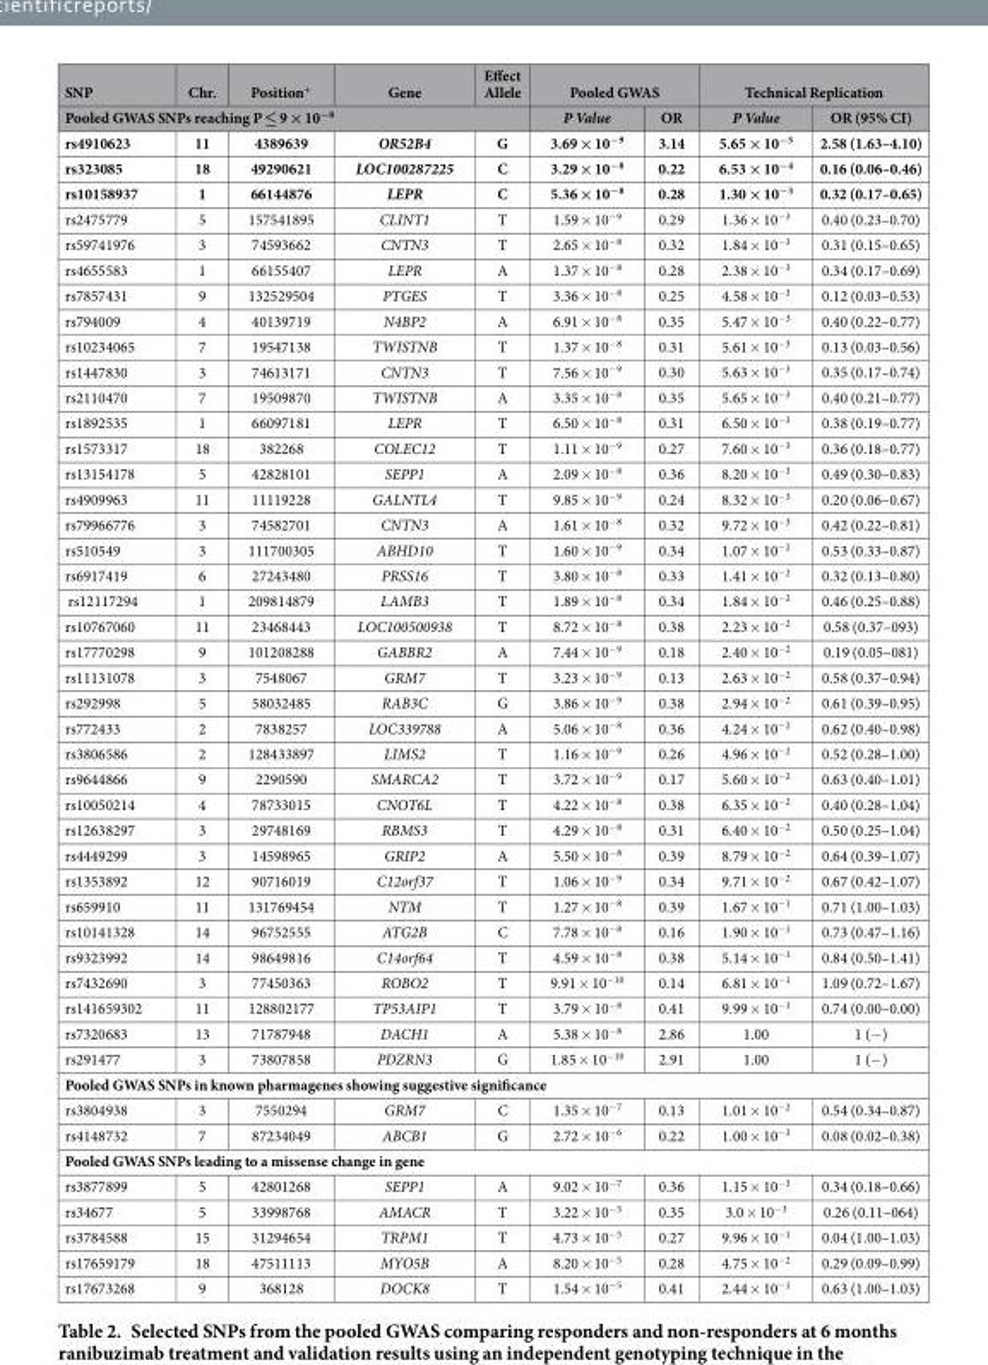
<table><thead><tr><td>SNP</td><td>Chr.</td><td>Position<sup>+</sup></td><td>Gene</td><td>Effect Allele</td><td colspan="2">Pooled GWAS</td><td colspan="2">Technical Replication</td></tr><tr><td colspan="5">Pooled GWAS SNPs reaching P ≤ 9 × 10<sup>−8</sup></td><td>P Value</td><td>OR</td><td>P Value</td><td>OR (95% CI)</td></tr></thead><tbody><tr><td>rs4910623</td><td>11</td><td>4389639</td><td>OR52B4</td><td>G</td><td>3.69 × 10<sup>−9</sup></td><td>3.14</td><td>5.65 × 10<sup>−5</sup></td><td>2.58 (1.63–4.10)</td></tr><tr><td>rs323085</td><td>18</td><td>49290621</td><td>LOC100287225</td><td>C</td><td>3.29 × 10<sup>−8</sup></td><td>0.22</td><td>6.53 × 10<sup>−4</sup></td><td>0.16 (0.06–0.46)</td></tr><tr><td>rs10158937</td><td>1</td><td>66144876</td><td>LEPR</td><td>C</td><td>5.36 × 10<sup>−8</sup></td><td>0.28</td><td>1.30 × 10<sup>−3</sup></td><td>0.32 (0.17–0.65)</td></tr><tr><td>rs2475779</td><td>5</td><td>157541895</td><td>CLINT1</td><td>T</td><td>1.59 × 10<sup>−9</sup></td><td>0.29</td><td>1.36 × 10<sup>−3</sup></td><td>0.40 (0.23–0.70)</td></tr><tr><td>rs59741976</td><td>3</td><td>74593662</td><td>CNTN3</td><td>T</td><td>2.65 × 10<sup>−8</sup></td><td>0.32</td><td>1.84 × 10<sup>−3</sup></td><td>0.31 (0.15–0.65)</td></tr><tr><td>rs4655583</td><td>1</td><td>66155407</td><td>LEPR</td><td>A</td><td>1.37 × 10<sup>−8</sup></td><td>0.28</td><td>2.38 × 10<sup>−3</sup></td><td>0.34 (0.17–0.69)</td></tr><tr><td>rs7857431</td><td>9</td><td>132529504</td><td>PTGES</td><td>T</td><td>3.36 × 10<sup>−8</sup></td><td>0.25</td><td>4.58 × 10<sup>−3</sup></td><td>0.12 (0.03–0.53)</td></tr><tr><td>rs794009</td><td>4</td><td>40139719</td><td>N4BP2</td><td>A</td><td>6.91 × 10<sup>−8</sup></td><td>0.35</td><td>5.47 × 10<sup>−3</sup></td><td>0.40 (0.22–0.77)</td></tr><tr><td>rs10234065</td><td>7</td><td>19547138</td><td>TWISTNB</td><td>T</td><td>1.37 × 10<sup>−8</sup></td><td>0.31</td><td>5.61 × 10<sup>−3</sup></td><td>0.13 (0.03–0.56)</td></tr><tr><td>rs1447830</td><td>3</td><td>74613171</td><td>CNTN3</td><td>T</td><td>7.56 × 10<sup>−9</sup></td><td>0.30</td><td>5.63 × 10<sup>−3</sup></td><td>0.35 (0.17–0.74)</td></tr><tr><td>rs2110470</td><td>7</td><td>19509870</td><td>TWISTNB</td><td>A</td><td>3.35 × 10<sup>−8</sup></td><td>0.35</td><td>5.65 × 10<sup>−3</sup></td><td>0.40 (0.21–0.77)</td></tr><tr><td>rs1892535</td><td>1</td><td>66097181</td><td>LEPR</td><td>T</td><td>6.50 × 10<sup>−8</sup></td><td>0.31</td><td>6.50 × 10<sup>−3</sup></td><td>0.38 (0.19–0.77)</td></tr><tr><td>rs1573317</td><td>18</td><td>382268</td><td>COLEC12</td><td>T</td><td>1.11 × 10<sup>−9</sup></td><td>0.27</td><td>7.60 × 10<sup>−3</sup></td><td>0.36 (0.18–0.77)</td></tr><tr><td>rs13154178</td><td>5</td><td>42828101</td><td>SEPP1</td><td>A</td><td>2.09 × 10<sup>−8</sup></td><td>0.36</td><td>8.20 × 10<sup>−3</sup></td><td>0.49 (0.30–0.83)</td></tr><tr><td>rs4909963</td><td>11</td><td>11119228</td><td>GALNTL4</td><td>T</td><td>9.85 × 10<sup>−9</sup></td><td>0.24</td><td>8.32 × 10<sup>−3</sup></td><td>0.20 (0.06–0.67)</td></tr><tr><td>rs79966776</td><td>3</td><td>74582701</td><td>CNTN3</td><td>A</td><td>1.61 × 10<sup>−8</sup></td><td>0.32</td><td>9.72 × 10<sup>−3</sup></td><td>0.42 (0.22–0.81)</td></tr><tr><td>rs510549</td><td>3</td><td>111700305</td><td>ABHD10</td><td>T</td><td>1.60 × 10<sup>−9</sup></td><td>0.34</td><td>1.07 × 10<sup>−2</sup></td><td>0.53 (0.33–0.87)</td></tr><tr><td>rs6917419</td><td>6</td><td>27243480</td><td>PRSS16</td><td>T</td><td>3.80 × 10<sup>−8</sup></td><td>0.33</td><td>1.41 × 10<sup>−2</sup></td><td>0.32 (0.13–0.80)</td></tr><tr><td>rs12117294</td><td>1</td><td>209814879</td><td>LAMB3</td><td>T</td><td>1.89 × 10<sup>−8</sup></td><td>0.34</td><td>1.84 × 10<sup>−2</sup></td><td>0.46 (0.25–0.88)</td></tr><tr><td>rs10767060</td><td>11</td><td>23468443</td><td>LOC100500938</td><td>T</td><td>8.72 × 10<sup>−8</sup></td><td>0.38</td><td>2.23 × 10<sup>−2</sup></td><td>0.58 (0.37–093)</td></tr><tr><td>rs17770298</td><td>9</td><td>101208288</td><td>GABBR2</td><td>A</td><td>7.44 × 10<sup>−9</sup></td><td>0.18</td><td>2.40 × 10<sup>−2</sup></td><td>0.19 (0.05–081)</td></tr><tr><td>rs11131078</td><td>3</td><td>7548067</td><td>GRM7</td><td>T</td><td>3.23 × 10<sup>−9</sup></td><td>0.13</td><td>2.63 × 10<sup>−2</sup></td><td>0.58 (0.37–0.94)</td></tr><tr><td>rs292998</td><td>5</td><td>58032485</td><td>RAB3C</td><td>G</td><td>3.86 × 10<sup>−9</sup></td><td>0.38</td><td>2.94 × 10<sup>−2</sup></td><td>0.61 (0.39–0.95)</td></tr><tr><td>rs772433</td><td>2</td><td>7838257</td><td>LOC339788</td><td>A</td><td>5.06 × 10<sup>−8</sup></td><td>0.36</td><td>4.24 × 10<sup>−2</sup></td><td>0.62 (0.40–0.98)</td></tr><tr><td>rs3806586</td><td>2</td><td>128433897</td><td>LIMS2</td><td>T</td><td>1.16 × 10<sup>−9</sup></td><td>0.26</td><td>4.96 × 10<sup>−2</sup></td><td>0.52 (0.28–1.00)</td></tr><tr><td>rs9644866</td><td>9</td><td>2290590</td><td>SMARCA2</td><td>T</td><td>3.72 × 10<sup>−9</sup></td><td>0.17</td><td>5.60 × 10<sup>−2</sup></td><td>0.63 (0.40–1.01)</td></tr><tr><td>rs10050214</td><td>4</td><td>78733015</td><td>CNOT6L</td><td>T</td><td>4.22 × 10<sup>−8</sup></td><td>0.38</td><td>6.35 × 10<sup>−2</sup></td><td>0.40 (0.28–1.04)</td></tr><tr><td>rs12638297</td><td>3</td><td>29748169</td><td>RBMS3</td><td>T</td><td>4.29 × 10<sup>−8</sup></td><td>0.31</td><td>6.40 × 10<sup>−2</sup></td><td>0.50 (0.25–1.04)</td></tr><tr><td>rs4449299</td><td>3</td><td>14598965</td><td>GRIP2</td><td>A</td><td>5.50 × 10<sup>−8</sup></td><td>0.39</td><td>8.79 × 10<sup>−2</sup></td><td>0.64 (0.39–1.07)</td></tr><tr><td>rs1353892</td><td>12</td><td>90716019</td><td>C12orf37</td><td>T</td><td>1.06 × 10<sup>−9</sup></td><td>0.34</td><td>9.71 × 10<sup>−2</sup></td><td>0.67 (0.42–1.07)</td></tr><tr><td>rs659910</td><td>11</td><td>131769454</td><td>NTM</td><td>T</td><td>1.27 × 10<sup>−8</sup></td><td>0.39</td><td>1.67 × 10<sup>−1</sup></td><td>0.71 (1.00–1.03)</td></tr><tr><td>rs10141328</td><td>14</td><td>96752555</td><td>ATG2B</td><td>C</td><td>7.78 × 10<sup>−8</sup></td><td>0.16</td><td>1.90 × 10<sup>−1</sup></td><td>0.73 (0.47–1.16)</td></tr><tr><td>rs9323992</td><td>14</td><td>98649816</td><td>C14orf64</td><td>T</td><td>4.59 × 10<sup>−8</sup></td><td>0.38</td><td>5.14 × 10<sup>−1</sup></td><td>0.84 (0.50–1.41)</td></tr><tr><td>rs7432690</td><td>3</td><td>77450363</td><td>ROBO2</td><td>T</td><td>9.91 × 10<sup>−10</sup></td><td>0.14</td><td>6.81 × 10<sup>−1</sup></td><td>1.09 (0.72–1.67)</td></tr><tr><td>rs141659302</td><td>11</td><td>128802177</td><td>TP53AIP1</td><td>T</td><td>3.79 × 10<sup>−8</sup></td><td>0.41</td><td>9.99 × 10<sup>−1</sup></td><td>0.74 (0.00–0.00)</td></tr><tr><td>rs7320683</td><td>13</td><td>71787948</td><td>DACH1</td><td>A</td><td>5.38 × 10<sup>−8</sup></td><td>2.86</td><td>1.00</td><td>1 (− )</td></tr><tr><td>rs291477</td><td>3</td><td>73807858</td><td>PDZRN3</td><td>G</td><td>1.85 × 10<sup>−10</sup></td><td>2.91</td><td>1.00</td><td>1 (− )</td></tr><tr><td colspan="9">Pooled GWAS SNPs in known pharmagenes showing suggestive significance</td></tr><tr><td>rs3804938</td><td>3</td><td>7550294</td><td>GRM7</td><td>C</td><td>1.35 × 10<sup>−7</sup></td><td>0.13</td><td>1.01 × 10<sup>−2</sup></td><td>0.54 (0.34–0.87)</td></tr><tr><td>rs4148732</td><td>7</td><td>87234049</td><td>ABCB1</td><td>G</td><td>2.72 × 10<sup>−6</sup></td><td>0.22</td><td>1.00 × 10<sup>−3</sup></td><td>0.08 (0.02–0.38)</td></tr><tr><td colspan="9">Pooled GWAS SNPs leading to a missense change in gene</td></tr><tr><td>rs3877899</td><td>5</td><td>42801268</td><td>SEPP1</td><td>A</td><td>9.02 × 10<sup>−7</sup></td><td>0.36</td><td>1.15 × 10<sup>−3</sup></td><td>0.34 (0.18–0.66)</td></tr><tr><td>rs34677</td><td>5</td><td>33998768</td><td>AMACR</td><td>T</td><td>3.22 × 10<sup>−5</sup></td><td>0.35</td><td>3.0 × 10<sup>−3</sup></td><td>0.26 (0.11–064)</td></tr><tr><td>rs3784588</td><td>15</td><td>31294654</td><td>TRPM1</td><td>T</td><td>4.73 × 10<sup>−5</sup></td><td>0.27</td><td>9.96 × 10<sup>−1</sup></td><td>0.04 (1.00–1.03)</td></tr><tr><td>rs17659179</td><td>18</td><td>47511113</td><td>MYO5B</td><td>A</td><td>8.20 × 10<sup>−5</sup></td><td>0.28</td><td>4.75 × 10<sup>−2</sup></td><td>0.29 (0.09–0.99)</td></tr><tr><td>rs17673268</td><td>9</td><td>368128</td><td>DOCK8</td><td>T</td><td>1.54 × 10<sup>−5</sup></td><td>0.41</td><td>2.44 × 10<sup>−1</sup></td><td>0.63 (1.00–1.03)</td></tr></tbody></table>